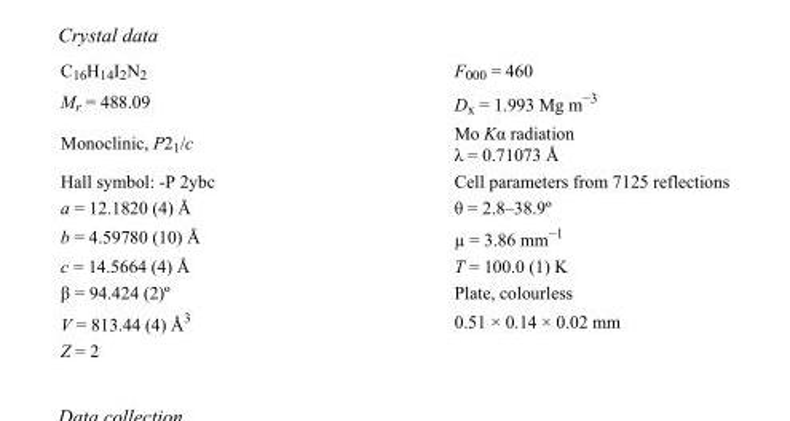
<table><tbody><tr><td>C<sub>16</sub>H<sub>14</sub>I<sub>2</sub>N<sub>2</sub></td><td>F000 = 460</td></tr><tr><td>M<sub>r</sub> = 488.09</td><td>D<sub>x</sub> = 1.993 Mg m<sup>−3</sup></td></tr><tr><td>Monoclinic, P2<sub>1</sub>/c</td><td>Mo Kα radiation λ = 0.71073 Å</td></tr><tr><td>Hall symbol: -P 2ybc</td><td>Cell parameters from 7125 reflections</td></tr><tr><td>a = 12.1820 (4) Å</td><td>θ = 2.8–38.9º</td></tr><tr><td>b = 4.59780 (10) Å</td><td>µ = 3.86 mm<sup>−1</sup></td></tr><tr><td>c = 14.5664 (4) Å</td><td>T = 100.0 (1) K</td></tr><tr><td>β = 94.424 (2)º</td><td>Plate, colourless</td></tr><tr><td>V = 813.44 (4) Å<sup>3</sup></td><td>0.51 × 0.14 × 0.02 mm</td></tr><tr><td>Z = 2</td><td></td></tr></tbody></table>